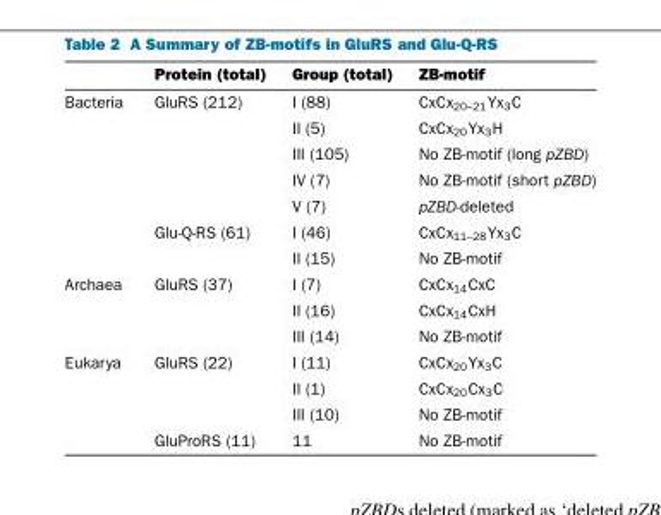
<table><thead><tr><td></td><td>Protein (total)</td><td>Group (total)</td><td>ZB-motif</td></tr></thead><tbody><tr><td rowspan="7">Bacteria</td><td>GluRS (212)</td><td>I (88)</td><td>CxCx<sub>20–21</sub>Yx<sub>3</sub>C</td></tr><tr><td></td><td>II (5)</td><td>CxCx<sub>20</sub>Yx<sub>3</sub>H</td></tr><tr><td></td><td>III (105)</td><td>No ZB-motif (long pZBD)</td></tr><tr><td></td><td>IV (7)</td><td>No ZB-motif (short pZBD)</td></tr><tr><td></td><td>V (7)</td><td>pZBD-deleted</td></tr><tr><td>Glu-Q-RS (61)</td><td>I (46)</td><td>CxCx<sub>11–28</sub>Yx<sub>3</sub>C</td></tr><tr><td></td><td>II (15)</td><td>No ZB-motif</td></tr><tr><td rowspan="3">Archaea</td><td>GluRS (37)</td><td>I (7)</td><td>CxCx<sub>14</sub>CxC</td></tr><tr><td></td><td>II (16)</td><td>CxCx<sub>14</sub>CxH</td></tr><tr><td></td><td>III (14)</td><td>No ZB-motif</td></tr><tr><td rowspan="4">Eukarya</td><td>GluRS (22)</td><td>I (11)</td><td>CxCx<sub>20</sub>Yx<sub>3</sub>C</td></tr><tr><td></td><td>II (1)</td><td>CxCx<sub>20</sub>Cx<sub>3</sub>C</td></tr><tr><td></td><td>III (10)</td><td>No ZB-motif</td></tr><tr><td>GluProRS (11)</td><td>11</td><td>No ZB-motif</td></tr></tbody></table>